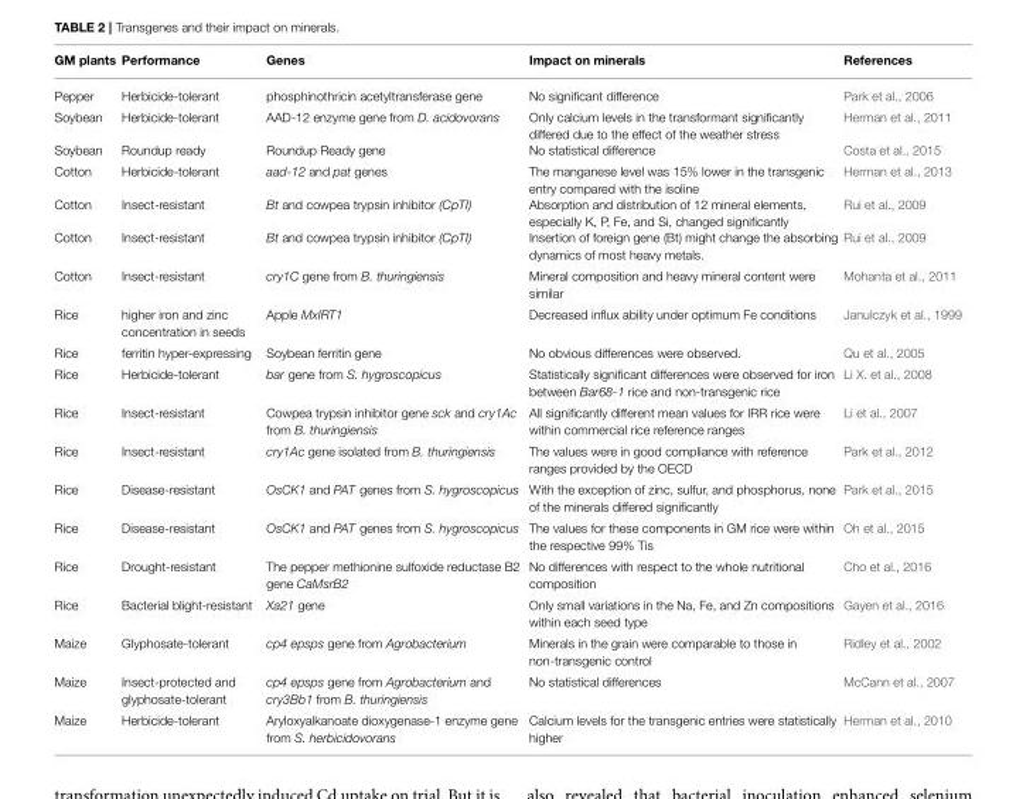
<table><thead><tr><td>GM plants</td><td>Performance</td><td>Genes</td><td>Impact on minerals</td><td>References</td></tr></thead><tbody><tr><td>Pepper</td><td>Herbicide-tolerant</td><td>phosphinothricin acetyltransferase gene</td><td>No significant difference</td><td>Park et al., 2006</td></tr><tr><td>Soybean</td><td>Herbicide-tolerant</td><td>AAD-12 enzyme gene from D. acidovorans</td><td>Only calcium levels in the transformant significantly differed due to the effect of the weather stress</td><td>Herman et al., 2011</td></tr><tr><td>Soybean</td><td>Roundup ready</td><td>Roundup Ready gene</td><td>No statistical difference</td><td>Costa et al., 2015</td></tr><tr><td>Cotton</td><td>Herbicide-tolerant</td><td>aad-12 and pat genes</td><td>The manganese level was 15% lower in the transgenic entry compared with the isoline</td><td>Herman et al., 2013</td></tr><tr><td>Cotton</td><td>Insect-resistant</td><td>Bt and cowpea trypsin inhibitor (CpTI)</td><td>Absorption and distribution of 12 mineral elements, especially K, P, Fe, and Si, changed significantly</td><td>Rui et al., 2009</td></tr><tr><td>Cotton</td><td>Insect-resistant</td><td>Bt and cowpea trypsin inhibitor (CpTI)</td><td>Insertion of foreign gene (Bt) might change the absorbing dynamics of most heavy metals.</td><td>Rui et al., 2009</td></tr><tr><td>Cotton</td><td>Insect-resistant</td><td>cry1C gene from B. thuringiensis</td><td>Mineral composition and heavy mineral content were similar</td><td>Mohanta et al., 2011</td></tr><tr><td>Rice</td><td>higher iron and zinc concentration in seeds</td><td>Apple MxIRT1</td><td>Decreased influx ability under optimum Fe conditions</td><td>Janulczyk et al., 1999</td></tr><tr><td>Rice</td><td>ferritin hyper-expressing</td><td>Soybean ferritin gene</td><td>No obvious differences were observed.</td><td>Qu et al., 2005</td></tr><tr><td>Rice</td><td>Herbicide-tolerant</td><td>bar gene from S. hygroscopicus</td><td>Statistically significant differences were observed for iron between Bar68-1 rice and non-transgenic rice</td><td>Li X. et al., 2008</td></tr><tr><td>Rice</td><td>Insect-resistant</td><td>Cowpea trypsin inhibitor gene sck and cry1Ac from B. thuringiensis</td><td>All significantly different mean values for IRR rice were within commercial rice reference ranges</td><td>Li et al., 2007</td></tr><tr><td>Rice</td><td>Insect-resistant</td><td>cry1Ac gene isolated from B. thuringiensis</td><td>The values were in good compliance with reference ranges provided by the OECD</td><td>Park et al., 2012</td></tr><tr><td>Rice</td><td>Disease-resistant</td><td>OsCK1 and PAT genes from S. hygroscopicus</td><td>With the exception of zinc, sulfur, and phosphorus, none of the minerals differed significantly</td><td>Park et al., 2015</td></tr><tr><td>Rice</td><td>Disease-resistant</td><td>OsCK1 and PAT genes from S. hygroscopicus</td><td>The values for these components in GM rice were within the respective 99% Tis</td><td>Oh et al., 2015</td></tr><tr><td>Rice</td><td>Drought-resistant</td><td>The pepper methionine sulfoxide reductase B2 gene CaMsrB2</td><td>No differences with respect to the whole nutritional composition</td><td>Cho et al., 2016</td></tr><tr><td>Rice</td><td>Bacterial blight-resistant</td><td>Xa21 gene</td><td>Only small variations in the Na, Fe, and Zn compositions within each seed type</td><td>Gayen et al., 2016</td></tr><tr><td>Maize</td><td>Glyphosate-tolerant</td><td>cp4 epsps gene from Agrobacterium</td><td>Minerals in the grain were comparable to those in non-transgenic control</td><td>Ridley et al., 2002</td></tr><tr><td>Maize</td><td>Insect-protected and glyphosate-tolerant</td><td>cp4 epsps gene from Agrobacterium and cry3Bb1 from B. thuringiensis</td><td>No statistical differences</td><td>McCann et al., 2007</td></tr><tr><td>Maize</td><td>Herbicide-tolerant</td><td>Aryloxyalkanoate dioxygenase-1 enzyme gene from S. herbicidovorans</td><td>Calcium levels for the transgenic entries were statistically higher</td><td>Herman et al., 2010</td></tr></tbody></table>